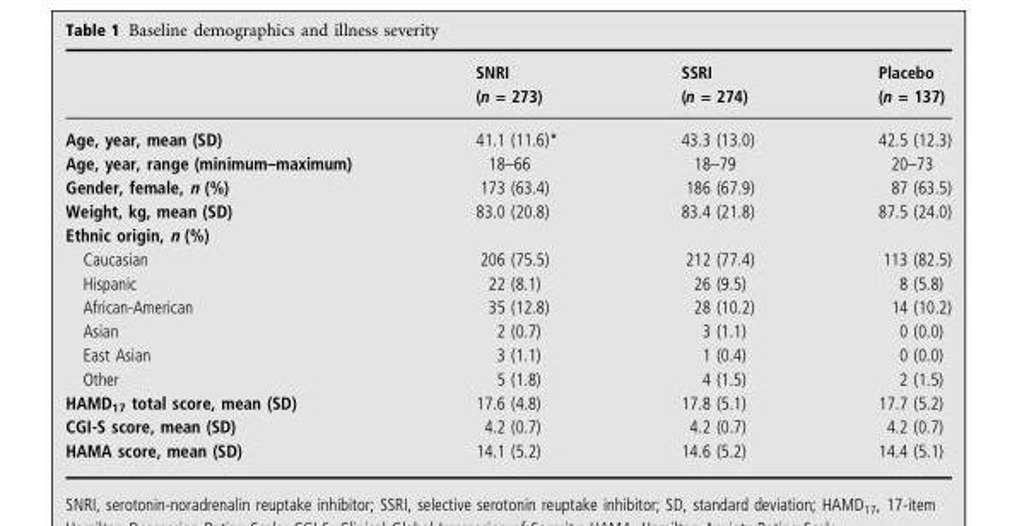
<table><thead><tr><td></td><td>SNRI (n = 273)</td><td>SSRI (n = 274)</td><td>Placebo (n = 137)</td></tr></thead><tbody><tr><td>Age, year, mean (SD)</td><td>41.1 (11.6)*</td><td>43.3 (13.0)</td><td>42.5 (12.3)</td></tr><tr><td>Age, year, range (minimum–maximum)</td><td>18–66</td><td>18–79</td><td>20–73</td></tr><tr><td>Gender, female, n (%)</td><td>173 (63.4)</td><td>186 (67.9)</td><td>87 (63.5)</td></tr><tr><td>Weight, kg, mean (SD)</td><td>83.0 (20.8)</td><td>83.4 (21.8)</td><td>87.5 (24.0)</td></tr><tr><td colspan="4">Ethnic origin, n (%)</td></tr><tr><td>Caucasian</td><td>206 (75.5)</td><td>212 (77.4)</td><td>113 (82.5)</td></tr><tr><td>Hispanic</td><td>22 (8.1)</td><td>26 (9.5)</td><td>8 (5.8)</td></tr><tr><td>African-American</td><td>35 (12.8)</td><td>28 (10.2)</td><td>14 (10.2)</td></tr><tr><td>Asian</td><td>2 (0.7)</td><td>3 (1.1)</td><td>0 (0.0)</td></tr><tr><td>East Asian</td><td>3 (1.1)</td><td>1 (0.4)</td><td>0 (0.0)</td></tr><tr><td>Other</td><td>5 (1.8)</td><td>4 (1.5)</td><td>2 (1.5)</td></tr><tr><td>HAMD<sub>17</sub> total score, mean (SD)</td><td>17.6 (4.8)</td><td>17.8 (5.1)</td><td>17.7 (5.2)</td></tr><tr><td>CGI-S score, mean (SD)</td><td>4.2 (0.7)</td><td>4.2 (0.7)</td><td>4.2 (0.7)</td></tr><tr><td>HAMA score, mean (SD)</td><td>14.1 (5.2)</td><td>14.6 (5.2)</td><td>14.4 (5.1)</td></tr></tbody></table>